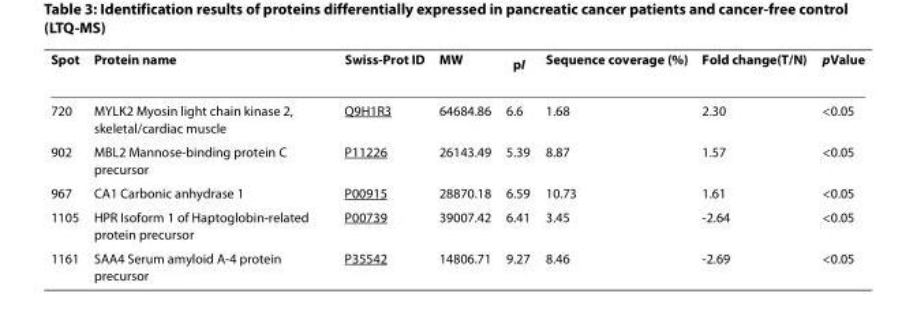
<table><thead><tr><td>Spot</td><td>Protein name</td><td>Swiss-Prot ID</td><td>MW</td><td>pI</td><td>Sequence coverage (%)</td><td>Fold change(T/N)</td><td>pValue</td></tr></thead><tbody><tr><td>720</td><td>MYLK2 Myosin light chain kinase 2, skeletal/cardiac muscle</td><td>Q9H1R3</td><td>64684.86</td><td>6.6</td><td>1.68</td><td>2.30</td><td>&lt;0.05</td></tr><tr><td>902</td><td>MBL2 Mannose-binding protein C precursor</td><td>P11226</td><td>26143.49</td><td>5.39</td><td>8.87</td><td>1.57</td><td>&lt;0.05</td></tr><tr><td>967</td><td>CA1 Carbonic anhydrase 1</td><td>P00915</td><td>28870.18</td><td>6.59</td><td>10.73</td><td>1.61</td><td>&lt;0.05</td></tr><tr><td>1105</td><td>HPR Isoform 1 of Haptoglobin-related protein precursor</td><td>P00739</td><td>39007.42</td><td>6.41</td><td>3.45</td><td>-2.64</td><td>&lt;0.05</td></tr><tr><td>1161</td><td>SAA4 Serum amyloid A-4 protein precursor</td><td>P35542</td><td>14806.71</td><td>9.27</td><td>8.46</td><td>-2.69</td><td>&lt;0.05</td></tr></tbody></table>